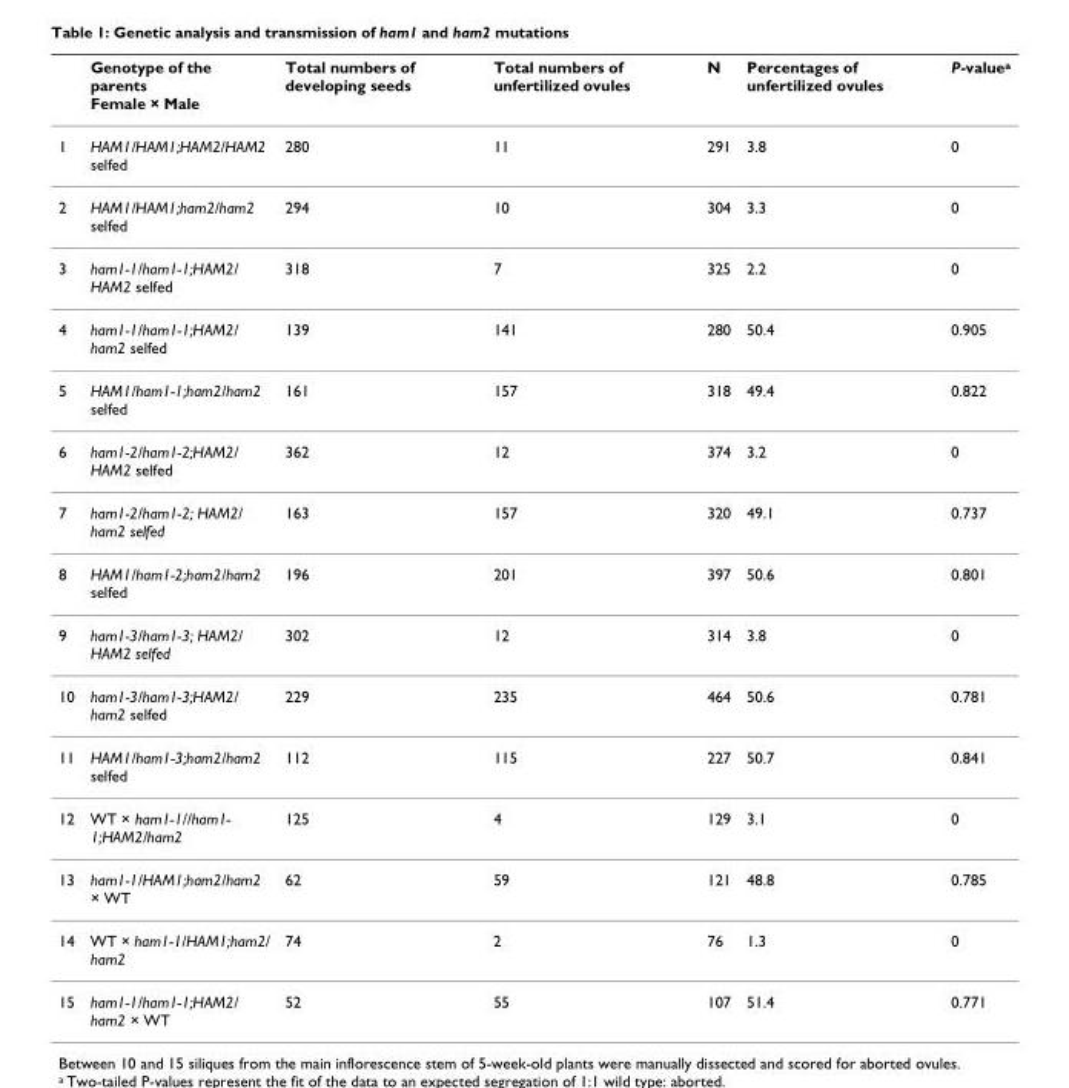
<table><thead><tr><td></td><td>Genotype of the parents Female × Male</td><td>Total numbers of developing seeds</td><td>Total numbers of unfertilized ovules</td><td>N</td><td>Percentages of unfertilized ovules</td><td>P-value<sup>a</sup></td></tr></thead><tbody><tr><td>1</td><td>HAM1/HAM1;HAM2/HAM2 selfed</td><td>280</td><td>11</td><td>291</td><td>3.8</td><td>0</td></tr><tr><td>2</td><td>HAM1/HAM1;ham2/ham2 selfed</td><td>294</td><td>10</td><td>304</td><td>3.3</td><td>0</td></tr><tr><td>3</td><td>ham1-1/ham1-1;HAM2/ HAM2 selfed</td><td>318</td><td>7</td><td>325</td><td>2.2</td><td>0</td></tr><tr><td>4</td><td>ham1-1/ham1-1;HAM2/ ham2 selfed</td><td>139</td><td>141</td><td>280</td><td>50.4</td><td>0.905</td></tr><tr><td>5</td><td>HAM1/ham1-1;ham2/ham2 selfed</td><td>161</td><td>157</td><td>318</td><td>49.4</td><td>0.822</td></tr><tr><td>6</td><td>ham1-2/ham1-2;HAM2/ HAM2 selfed</td><td>362</td><td>12</td><td>374</td><td>3.2</td><td>0</td></tr><tr><td>7</td><td>ham1-2/ham1-2; HAM2/ ham2 selfed</td><td>163</td><td>157</td><td>320</td><td>49.1</td><td>0.737</td></tr><tr><td>8</td><td>HAM1/ham1-2;ham2/ham2 selfed</td><td>196</td><td>201</td><td>397</td><td>50.6</td><td>0.801</td></tr><tr><td>9</td><td>ham1-3/ham1-3; HAM2/ HAM2 selfed</td><td>302</td><td>12</td><td>314</td><td>3.8</td><td>0</td></tr><tr><td>10</td><td>ham1-3/ham1-3;HAM2/ ham2 selfed</td><td>229</td><td>235</td><td>464</td><td>50.6</td><td>0.781</td></tr><tr><td>11</td><td>HAM1/ham1-3;ham2/ham2 selfed</td><td>112</td><td>115</td><td>227</td><td>50.7</td><td>0.841</td></tr><tr><td>12</td><td>WT × ham1-1//ham1- 1;HAM2/ham2</td><td>125</td><td>4</td><td>129</td><td>3.1</td><td>0</td></tr><tr><td>13</td><td>ham1-1/HAM1;ham2/ham2 × WT</td><td>62</td><td>59</td><td>121</td><td>48.8</td><td>0.785</td></tr><tr><td>14</td><td>WT × ham1-1/HAM1;ham2/ ham2</td><td>74</td><td>2</td><td>76</td><td>1.3</td><td>0</td></tr><tr><td>15</td><td>ham1-1/ham1-1;HAM2/ ham2 × WT</td><td>52</td><td>55</td><td>107</td><td>51.4</td><td>0.771</td></tr></tbody></table>